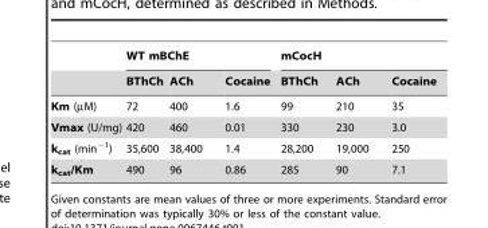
<table><thead><tr><td rowspan="2"></td><td colspan="3">WT mBChE</td><td colspan="3">mCocH</td></tr><tr><td>BThCh</td><td>ACh</td><td>Cocaine</td><td>BThCh</td><td>ACh</td><td>Cocaine</td></tr></thead><tbody><tr><td>Km (µM)</td><td>72</td><td>400</td><td>1.6</td><td>99</td><td>210</td><td>35</td></tr><tr><td>Vmax (U/mg)</td><td>420</td><td>460</td><td>0.01</td><td>330</td><td>230</td><td>3.0</td></tr><tr><td>k<sub>cat</sub> (min<sup>−1</sup>)</td><td>35,600</td><td>38,400</td><td>1.4</td><td>28,200</td><td>19,000</td><td>250</td></tr><tr><td>k<sub>cat</sub>/Km</td><td>490</td><td>96</td><td>0.86</td><td>285</td><td>90</td><td>7.1</td></tr></tbody></table>